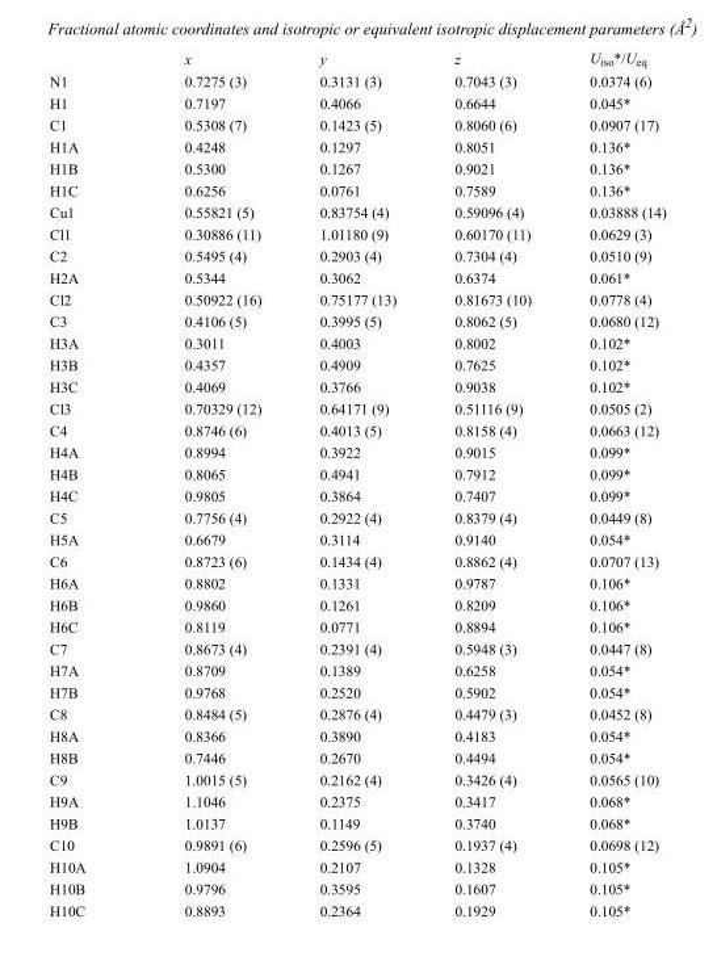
<table><thead><tr><td></td><td>x</td><td>y</td><td>z</td><td>U<sub>iso</sub>*/U<sub>eq</sub></td></tr></thead><tbody><tr><td>N1</td><td>0.7275 (3)</td><td>0.3131 (3)</td><td>0.7043 (3)</td><td>0.0374 (6)</td></tr><tr><td>H1</td><td>0.7197</td><td>0.4066</td><td>0.6644</td><td>0.045*</td></tr><tr><td>C1</td><td>0.5308 (7)</td><td>0.1423 (5)</td><td>0.8060 (6)</td><td>0.0907 (17)</td></tr><tr><td>H1A</td><td>0.4248</td><td>0.1297</td><td>0.8051</td><td>0.136*</td></tr><tr><td>H1B</td><td>0.5300</td><td>0.1267</td><td>0.9021</td><td>0.136*</td></tr><tr><td>H1C</td><td>0.6256</td><td>0.0761</td><td>0.7589</td><td>0.136*</td></tr><tr><td>Cu1</td><td>0.55821 (5)</td><td>0.83754 (4)</td><td>0.59096 (4)</td><td>0.03888 (14)</td></tr><tr><td>Cl1</td><td>0.30886 (11)</td><td>1.01180 (9)</td><td>0.60170 (11)</td><td>0.0629 (3)</td></tr><tr><td>C2</td><td>0.5495 (4)</td><td>0.2903 (4)</td><td>0.7304 (4)</td><td>0.0510 (9)</td></tr><tr><td>H2A</td><td>0.5344</td><td>0.3062</td><td>0.6374</td><td>0.061*</td></tr><tr><td>Cl2</td><td>0.50922 (16)</td><td>0.75177 (13)</td><td>0.81673 (10)</td><td>0.0778 (4)</td></tr><tr><td>C3</td><td>0.4106 (5)</td><td>0.3995 (5)</td><td>0.8062 (5)</td><td>0.0680 (12)</td></tr><tr><td>H3A</td><td>0.3011</td><td>0.4003</td><td>0.8002</td><td>0.102*</td></tr><tr><td>H3B</td><td>0.4357</td><td>0.4909</td><td>0.7625</td><td>0.102*</td></tr><tr><td>H3C</td><td>0.4069</td><td>0.3766</td><td>0.9038</td><td>0.102*</td></tr><tr><td>Cl3</td><td>0.70329 (12)</td><td>0.64171 (9)</td><td>0.51116 (9)</td><td>0.0505 (2)</td></tr><tr><td>C4</td><td>0.8746 (6)</td><td>0.4013 (5)</td><td>0.8158 (4)</td><td>0.0663 (12)</td></tr><tr><td>H4A</td><td>0.8994</td><td>0.3922</td><td>0.9015</td><td>0.099*</td></tr><tr><td>H4B</td><td>0.8065</td><td>0.4941</td><td>0.7912</td><td>0.099*</td></tr><tr><td>H4C</td><td>0.9805</td><td>0.3864</td><td>0.7407</td><td>0.099*</td></tr><tr><td>C5</td><td>0.7756 (4)</td><td>0.2922 (4)</td><td>0.8379 (4)</td><td>0.0449 (8)</td></tr><tr><td>H5A</td><td>0.6679</td><td>0.3114</td><td>0.9140</td><td>0.054*</td></tr><tr><td>C6</td><td>0.8723 (6)</td><td>0.1434 (4)</td><td>0.8862 (4)</td><td>0.0707 (13)</td></tr><tr><td>H6A</td><td>0.8802</td><td>0.1331</td><td>0.9787</td><td>0.106*</td></tr><tr><td>H6B</td><td>0.9860</td><td>0.1261</td><td>0.8209</td><td>0.106*</td></tr><tr><td>H6C</td><td>0.8119</td><td>0.0771</td><td>0.8894</td><td>0.106*</td></tr><tr><td>C7</td><td>0.8673 (4)</td><td>0.2391 (4)</td><td>0.5948 (3)</td><td>0.0447 (8)</td></tr><tr><td>H7A</td><td>0.8709</td><td>0.1389</td><td>0.6258</td><td>0.054*</td></tr><tr><td>H7B</td><td>0.9768</td><td>0.2520</td><td>0.5902</td><td>0.054*</td></tr><tr><td>C8</td><td>0.8484 (5)</td><td>0.2876 (4)</td><td>0.4479 (3)</td><td>0.0452 (8)</td></tr><tr><td>H8A</td><td>0.8366</td><td>0.3890</td><td>0.4183</td><td>0.054*</td></tr><tr><td>H8B</td><td>0.7446</td><td>0.2670</td><td>0.4494</td><td>0.054*</td></tr><tr><td>C9</td><td>1.0015 (5)</td><td>0.2162 (4)</td><td>0.3426 (4)</td><td>0.0565 (10)</td></tr><tr><td>H9A</td><td>1.1046</td><td>0.2375</td><td>0.3417</td><td>0.068*</td></tr><tr><td>H9B</td><td>1.0137</td><td>0.1149</td><td>0.3740</td><td>0.068*</td></tr><tr><td>C10</td><td>0.9891 (6)</td><td>0.2596 (5)</td><td>0.1937 (4)</td><td>0.0698 (12)</td></tr><tr><td>H10A</td><td>1.0904</td><td>0.2107</td><td>0.1328</td><td>0.105*</td></tr><tr><td>H10B</td><td>0.9796</td><td>0.3595</td><td>0.1607</td><td>0.105*</td></tr><tr><td>H10C</td><td>0.8893</td><td>0.2364</td><td>0.1929</td><td>0.105*</td></tr></tbody></table>